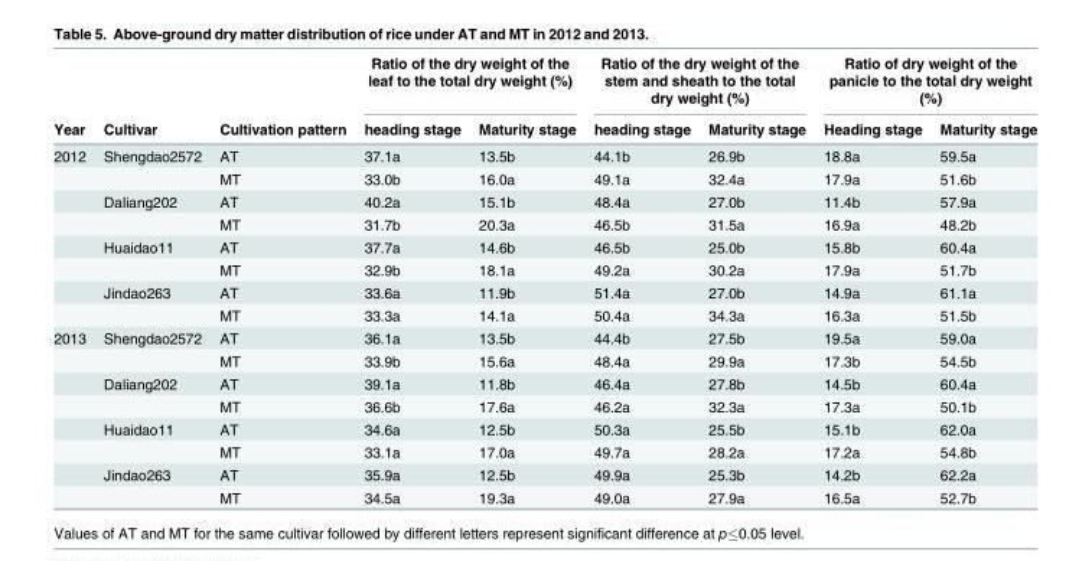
<table><thead><tr><td rowspan="2">Year</td><td rowspan="2">Cultivar</td><td rowspan="2">Cultivation pattern</td><td colspan="2">Ratio of the dry weight of the leaf to the total dry weight (%)</td><td colspan="2">Ratio of the dry weight of the stem and sheath to the total dry weight (%)</td><td colspan="2">Ratio of dry weight of the panicle to the total dry weight (%)</td></tr><tr><td>heading stage</td><td>Maturity stage</td><td>heading stage</td><td>Maturity stage</td><td>Heading stage</td><td>Maturity stage</td></tr></thead><tbody><tr><td rowspan="8">2012</td><td>Shengdao2572</td><td>AT</td><td>37.1a</td><td>13.5b</td><td>44.1b</td><td>26.9b</td><td>18.8a</td><td>59.5a</td></tr><tr><td></td><td>MT</td><td>33.0b</td><td>16.0a</td><td>49.1a</td><td>32.4a</td><td>17.9a</td><td>51.6b</td></tr><tr><td>Daliang202</td><td>AT</td><td>40.2a</td><td>15.1b</td><td>48.4a</td><td>27.0b</td><td>11.4b</td><td>57.9a</td></tr><tr><td></td><td>MT</td><td>31.7b</td><td>20.3a</td><td>46.5b</td><td>31.5a</td><td>16.9a</td><td>48.2b</td></tr><tr><td>Huaidao11</td><td>AT</td><td>37.7a</td><td>14.6b</td><td>46.5b</td><td>25.0b</td><td>15.8b</td><td>60.4a</td></tr><tr><td></td><td>MT</td><td>32.9b</td><td>18.1a</td><td>49.2a</td><td>30.2a</td><td>17.9a</td><td>51.7b</td></tr><tr><td>Jindao263</td><td>AT</td><td>33.6a</td><td>11.9b</td><td>51.4a</td><td>27.0b</td><td>14.9a</td><td>61.1a</td></tr><tr><td></td><td>MT</td><td>33.3a</td><td>14.1a</td><td>50.4a</td><td>34.3a</td><td>16.3a</td><td>51.5b</td></tr><tr><td rowspan="8">2013</td><td>Shengdao2572</td><td>AT</td><td>36.1a</td><td>13.5b</td><td>44.4b</td><td>27.5b</td><td>19.5a</td><td>59.0a</td></tr><tr><td></td><td>MT</td><td>33.9b</td><td>15.6a</td><td>48.4a</td><td>29.9a</td><td>17.3b</td><td>54.5b</td></tr><tr><td>Daliang202</td><td>AT</td><td>39.1a</td><td>11.8b</td><td>46.4a</td><td>27.8b</td><td>14.5b</td><td>60.4a</td></tr><tr><td></td><td>MT</td><td>36.6b</td><td>17.6a</td><td>46.2a</td><td>32.3a</td><td>17.3a</td><td>50.1b</td></tr><tr><td>Huaidao11</td><td>AT</td><td>34.6a</td><td>12.5b</td><td>50.3a</td><td>25.5b</td><td>15.1b</td><td>62.0a</td></tr><tr><td></td><td>MT</td><td>33.1a</td><td>17.0a</td><td>49.7a</td><td>28.2a</td><td>17.2a</td><td>54.8b</td></tr><tr><td>Jindao263</td><td>AT</td><td>35.9a</td><td>12.5b</td><td>49.9a</td><td>25.3b</td><td>14.2b</td><td>62.2a</td></tr><tr><td></td><td>MT</td><td>34.5a</td><td>19.3a</td><td>49.0a</td><td>27.9a</td><td>16.5a</td><td>52.7b</td></tr></tbody></table>